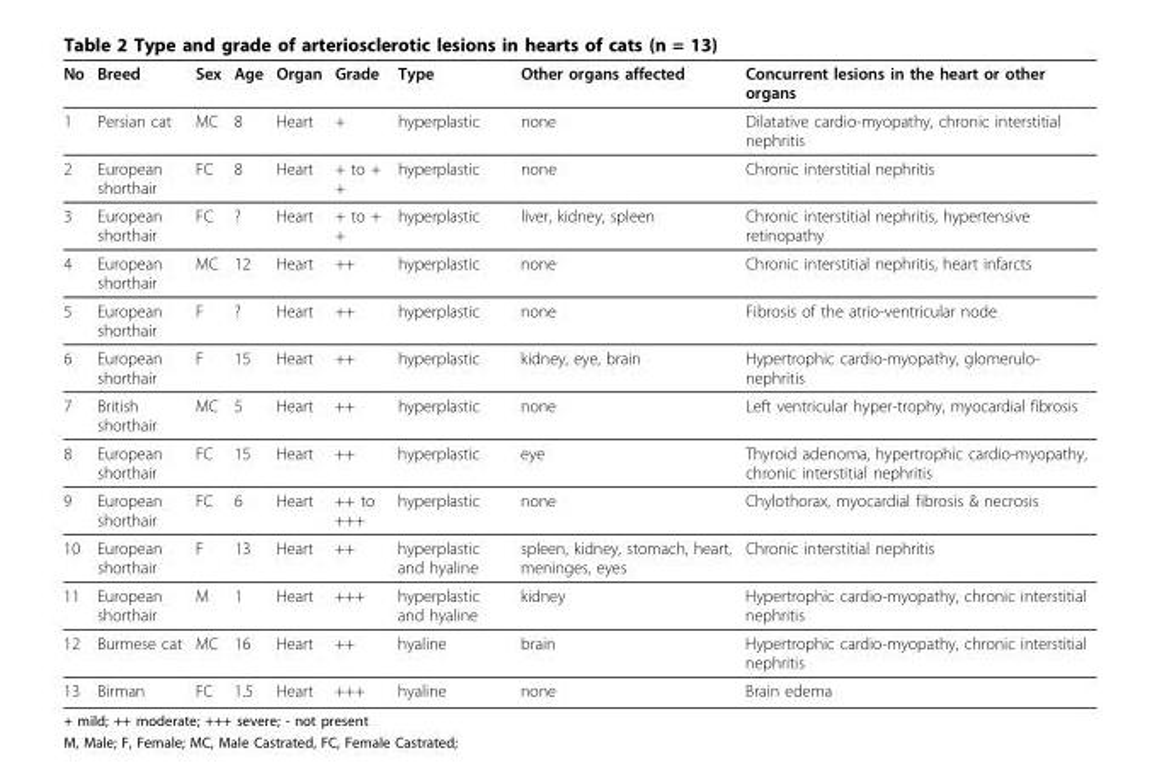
<table><thead><tr><td>No</td><td>Breed</td><td>Sex</td><td>Age</td><td>Organ</td><td>Grade</td><td>Type</td><td>Other organs affected</td><td>Concurrent lesions in the heart or other organs</td></tr></thead><tbody><tr><td>1</td><td>Persian cat</td><td>MC</td><td>8</td><td>Heart</td><td>+</td><td>hyperplastic</td><td>none</td><td>Dilatative cardio-myopathy, chronic interstitial nephritis</td></tr><tr><td>2</td><td>European shorthair</td><td>FC</td><td>8</td><td>Heart</td><td>+ to + +</td><td>hyperplastic</td><td>none</td><td>Chronic interstitial nephritis</td></tr><tr><td>3</td><td>European shorthair</td><td>FC</td><td>?</td><td>Heart</td><td>+ to + +</td><td>hyperplastic</td><td>liver, kidney, spleen</td><td>Chronic interstitial nephritis, hypertensive retinopathy</td></tr><tr><td>4</td><td>European shorthair</td><td>MC</td><td>12</td><td>Heart</td><td>++</td><td>hyperplastic</td><td>none</td><td>Chronic interstitial nephritis, heart infarcts</td></tr><tr><td>5</td><td>European shorthair</td><td>F</td><td>?</td><td>Heart</td><td>++</td><td>hyperplastic</td><td>none</td><td>Fibrosis of the atrio-ventricular node</td></tr><tr><td>6</td><td>European shorthair</td><td>F</td><td>15</td><td>Heart</td><td>++</td><td>hyperplastic</td><td>kidney, eye, brain</td><td>Hypertrophic cardio-myopathy, glomerulo- nephritis</td></tr><tr><td>7</td><td>British shorthair</td><td>MC</td><td>5</td><td>Heart</td><td>++</td><td>hyperplastic</td><td>none</td><td>Left ventricular hyper-trophy, myocardial fibrosis</td></tr><tr><td>8</td><td>European shorthair</td><td>FC</td><td>15</td><td>Heart</td><td>++</td><td>hyperplastic</td><td>eye</td><td>Thyroid adenoma, hypertrophic cardio-myopathy, chronic interstitial nephritis</td></tr><tr><td>9</td><td>European shorthair</td><td>FC</td><td>6</td><td>Heart</td><td>++ to +++</td><td>hyperplastic</td><td>none</td><td>Chylothorax, myocardial fibrosis &amp; necrosis</td></tr><tr><td>10</td><td>European shorthair</td><td>F</td><td>13</td><td>Heart</td><td>++</td><td>hyperplastic and hyaline</td><td>spleen, kidney, stomach, heart, meninges, eyes</td><td>Chronic interstitial nephritis</td></tr><tr><td>11</td><td>European shorthair</td><td>M</td><td>1</td><td>Heart</td><td>+++</td><td>hyperplastic and hyaline</td><td>kidney</td><td>Hypertrophic cardio-myopathy, chronic interstitial nephritis</td></tr><tr><td>12</td><td>Burmese cat</td><td>MC</td><td>16</td><td>Heart</td><td>++</td><td>hyaline</td><td>brain</td><td>Hypertrophic cardio-myopathy, chronic interstitial nephritis</td></tr><tr><td>13</td><td>Birman</td><td>FC</td><td>1.5</td><td>Heart</td><td>+++</td><td>hyaline</td><td>none</td><td>Brain edema</td></tr></tbody></table>